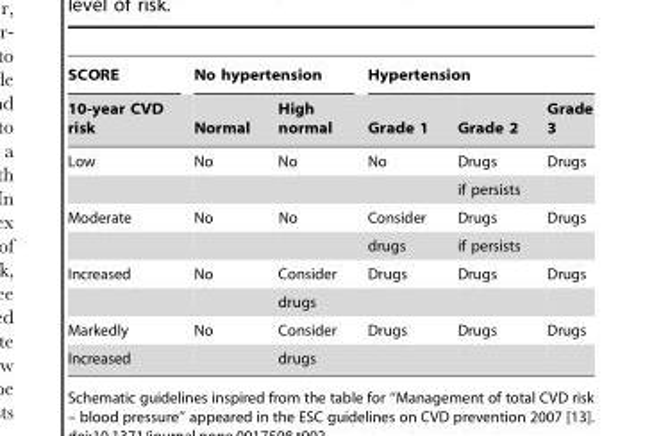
<table><thead><tr><td rowspan="2">SCORE 10-year CVD risk</td><td colspan="2">No hypertension</td><td colspan="3">Hypertension</td></tr><tr><td>Normal</td><td>High normal</td><td>Grade 1</td><td>Grade 2</td><td>Grade 3</td></tr></thead><tbody><tr><td rowspan="2">Low</td><td>No</td><td>No</td><td>No</td><td>Drugs</td><td>Drugs</td></tr><tr><td></td><td></td><td></td><td>if persists</td><td></td></tr><tr><td rowspan="2">Moderate</td><td>No</td><td>No</td><td>Consider</td><td>Drugs</td><td>Drugs</td></tr><tr><td></td><td></td><td>drugs</td><td>if persists</td><td></td></tr><tr><td rowspan="2">Increased</td><td>No</td><td>Consider</td><td>Drugs</td><td>Drugs</td><td>Drugs</td></tr><tr><td></td><td>drugs</td><td></td><td></td><td></td></tr><tr><td>Markedly</td><td>No</td><td>Consider</td><td>Drugs</td><td>Drugs</td><td>Drugs</td></tr><tr><td>Increased</td><td></td><td>drugs</td><td></td><td></td><td></td></tr></tbody></table>